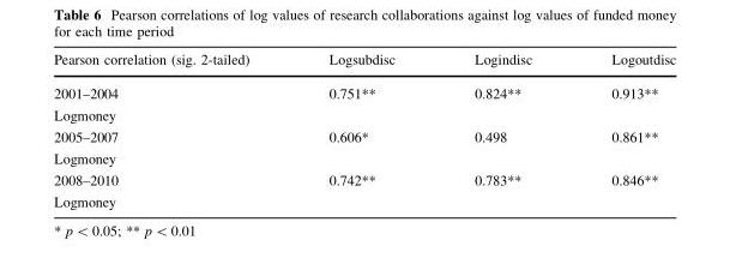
<table><thead><tr><td>Pearson correlation (sig. 2-tailed)</td><td>Logsubdisc</td><td>Logindisc</td><td>Logoutdisc</td></tr></thead><tbody><tr><td>2001–2004</td><td rowspan="2">0.751**</td><td rowspan="2">0.824**</td><td rowspan="2">0.913**</td></tr><tr><td>Logmoney</td></tr><tr><td>2005–2007</td><td rowspan="2">0.606*</td><td rowspan="2">0.498</td><td rowspan="2">0.861**</td></tr><tr><td>Logmoney</td></tr><tr><td>2008–2010</td><td rowspan="2">0.742**</td><td rowspan="2">0.783**</td><td rowspan="2">0.846**</td></tr><tr><td>Logmoney</td></tr></tbody></table>